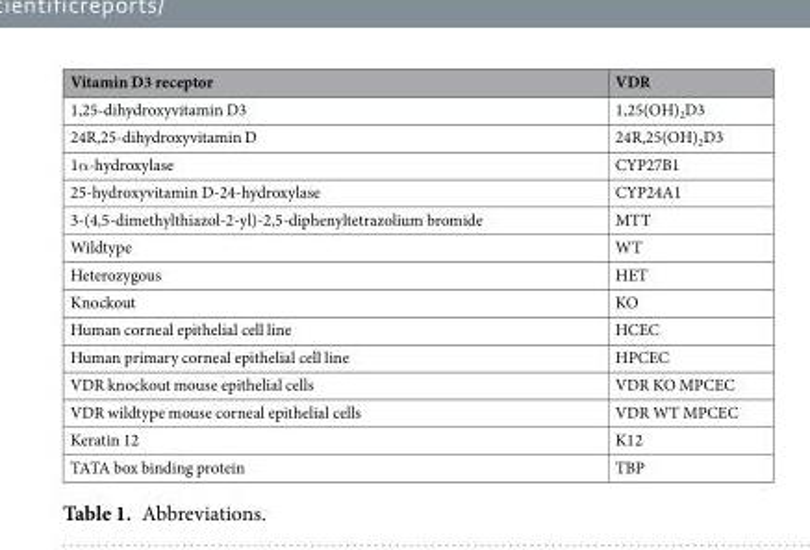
<table><thead><tr><td>Vitamin D3 receptor</td><td>VDR</td></tr></thead><tbody><tr><td>1,25-dihydroxyvitamin D3</td><td>1,25(OH)<sub>2</sub>D3</td></tr><tr><td>24R,25-dihydroxyvitamin D</td><td>24R,25(OH)<sub>2</sub>D3</td></tr><tr><td>1α-hydroxylase</td><td>CYP27B1</td></tr><tr><td>25-hydroxyvitamin D-24-hydroxylase</td><td>CYP24A1</td></tr><tr><td>3-(4,5-dimethylthiazol-2-yl)-2,5-diphenyltetrazolium bromide</td><td>MTT</td></tr><tr><td>Wildtype</td><td>WT</td></tr><tr><td>Heterozygous</td><td>HET</td></tr><tr><td>Knockout</td><td>KO</td></tr><tr><td>Human corneal epithelial cell line</td><td>HCEC</td></tr><tr><td>Human primary corneal epithelial cell line</td><td>HPCEC</td></tr><tr><td>VDR knockout mouse epithelial cells</td><td>VDR KO MPCEC</td></tr><tr><td>VDR wildtype mouse corneal epithelial cells</td><td>VDR WT MPCEC</td></tr><tr><td>Keratin 12</td><td>K12</td></tr><tr><td>TATA box binding protein</td><td>TBP</td></tr></tbody></table>